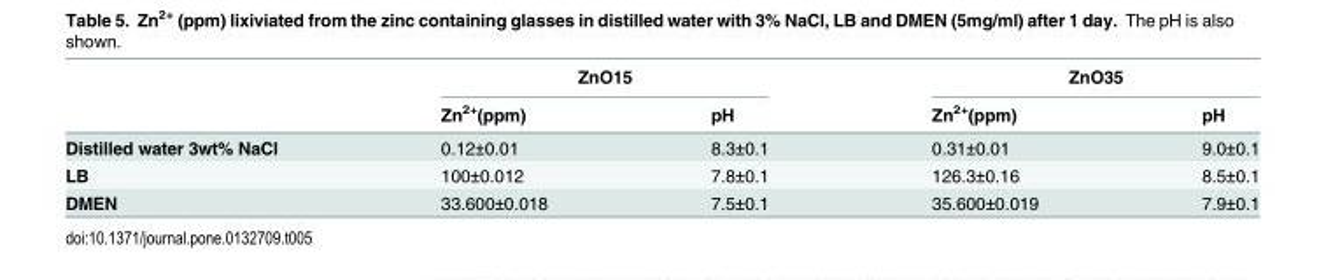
<table><thead><tr><td rowspan="2"></td><td colspan="2">ZnO15</td><td colspan="2">ZnO35</td></tr><tr><td>Zn<sup>2+</sup>(ppm)</td><td>pH</td><td>Zn<sup>2+</sup>(ppm)</td><td>pH</td></tr></thead><tbody><tr><td>Distilled water 3wt% NaCl</td><td>0.12±0.01</td><td>8.3±0.1</td><td>0.31±0.01</td><td>9.0±0.1</td></tr><tr><td>LB</td><td>100±0.012</td><td>7.8±0.1</td><td>126.3±0.16</td><td>8.5±0.1</td></tr><tr><td>DMEN</td><td>33.600±0.018</td><td>7.5±0.1</td><td>35.600±0.019</td><td>7.9±0.1</td></tr></tbody></table>